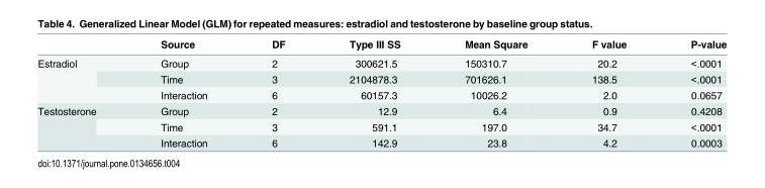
<table><thead><tr><td></td><td>Source</td><td>DF</td><td>Type III SS</td><td>Mean Square</td><td>F value</td><td>P-value</td></tr></thead><tbody><tr><td rowspan="3">Estradiol</td><td>Group</td><td>2</td><td>300621.5</td><td>150310.7</td><td>20.2</td><td>&lt;.0001</td></tr><tr><td>Time</td><td>3</td><td>2104878.3</td><td>701626.1</td><td>138.5</td><td>&lt;.0001</td></tr><tr><td>Interaction</td><td>6</td><td>60157.3</td><td>10026.2</td><td>2.0</td><td>0.0657</td></tr><tr><td rowspan="3">Testosterone</td><td>Group</td><td>2</td><td>12.9</td><td>6.4</td><td>0.9</td><td>0.4208</td></tr><tr><td>Time</td><td>3</td><td>591.1</td><td>197.0</td><td>34.7</td><td>&lt;.0001</td></tr><tr><td>Interaction</td><td>6</td><td>142.9</td><td>23.8</td><td>4.2</td><td>0.0003</td></tr></tbody></table>